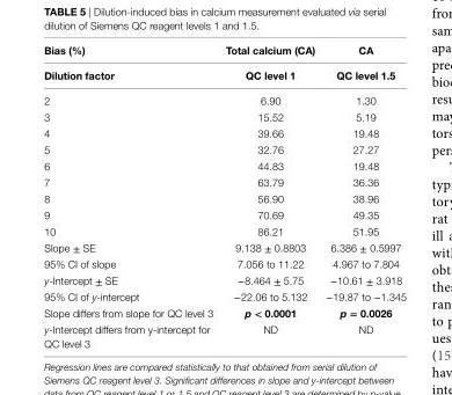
<table><thead><tr><td rowspan="2">Bias (%) Dilution factor</td><td rowspan="2">Total calcium (ca) Qc level 1</td><td rowspan="2">ca Qc level 1.5</td></tr><tr></tr></thead><tbody><tr><td>2</td><td>6.90</td><td>1.30</td></tr><tr><td>3</td><td>15.52</td><td>5.19</td></tr><tr><td>4</td><td>39.66</td><td>19.48</td></tr><tr><td>5</td><td>32.76</td><td>27.27</td></tr><tr><td>6</td><td>44.83</td><td>19.48</td></tr><tr><td>7</td><td>63.79</td><td>36.36</td></tr><tr><td>8</td><td>56.90</td><td>38.96</td></tr><tr><td>9</td><td>70.69</td><td>49.35</td></tr><tr><td>10</td><td>86.21</td><td>51.95</td></tr><tr><td>Slope ± SE</td><td>9.138 ± 0.8803</td><td>6.386 ± 0.5997</td></tr><tr><td>95% CI of slope</td><td>7.056 to 11.22</td><td>4.967 to 7.804</td></tr><tr><td>y-Intercept ± SE</td><td>−8.464 ± 5.75</td><td>−10.61 ± 3.918</td></tr><tr><td>95% CI of y-intercept</td><td>−22.06 to 5.132</td><td>−19.87 to −1.345</td></tr><tr><td>Slope differs from slope for QC level 3</td><td>p &lt; 0.0001</td><td>p = 0.0026</td></tr><tr><td>y-Intercept differs from y-intercept for QC level 3</td><td>ND</td><td>ND</td></tr></tbody></table>